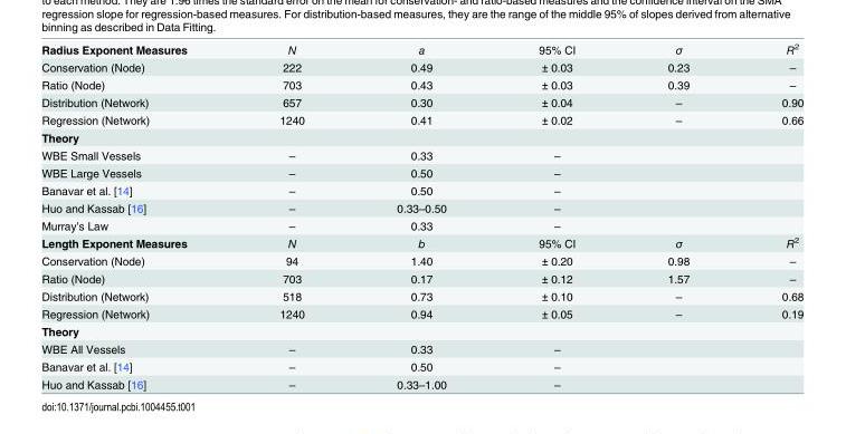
<table><tbody><tr><td>Radius Exponent Measures</td><td>N</td><td>a</td><td>95% CI</td><td>σ</td><td>R<sup>2</sup></td></tr><tr><td>Conservation (Node)</td><td>222</td><td>0.49</td><td>± 0.03</td><td>0.23</td><td>–</td></tr><tr><td>Ratio (Node)</td><td>703</td><td>0.43</td><td>± 0.03</td><td>0.39</td><td>–</td></tr><tr><td>Distribution (Network)</td><td>657</td><td>0.30</td><td>± 0.04</td><td>–</td><td>0.90</td></tr><tr><td>Regression (Network)</td><td>1240</td><td>0.41</td><td>± 0.02</td><td>–</td><td>0.66</td></tr><tr><td colspan="6">Theory</td></tr><tr><td>WBE Small Vessels</td><td>–</td><td>0.33</td><td>–</td><td></td><td></td></tr><tr><td>WBE Large Vessels</td><td>–</td><td>0.50</td><td>–</td><td></td><td></td></tr><tr><td>Banavar et al. [14]</td><td>–</td><td>0.50</td><td>–</td><td></td><td></td></tr><tr><td>Huo and Kassab [16]</td><td>–</td><td>0.33–0.50</td><td>–</td><td></td><td></td></tr><tr><td>Murray’s Law</td><td>–</td><td>0.33</td><td>–</td><td></td><td></td></tr><tr><td>Length Exponent Measures</td><td>N</td><td>b</td><td>95% CI</td><td>σ</td><td>R<sup>2</sup></td></tr><tr><td>Conservation (Node)</td><td>94</td><td>1.40</td><td>± 0.20</td><td>0.98</td><td>–</td></tr><tr><td>Ratio (Node)</td><td>703</td><td>0.17</td><td>± 0.12</td><td>1.57</td><td>–</td></tr><tr><td>Distribution (Network)</td><td>518</td><td>0.73</td><td>± 0.10</td><td>–</td><td>0.68</td></tr><tr><td>Regression (Network)</td><td>1240</td><td>0.94</td><td>± 0.05</td><td>–</td><td>0.19</td></tr><tr><td colspan="6">Theory</td></tr><tr><td>WBE All Vessels</td><td>–</td><td>0.33</td><td>–</td><td></td><td></td></tr><tr><td>Banavar et al. [14]</td><td>–</td><td>0.50</td><td>–</td><td></td><td></td></tr><tr><td>Huo and Kassab [16]</td><td>–</td><td>0.33–1.00</td><td>–</td><td></td><td></td></tr></tbody></table>